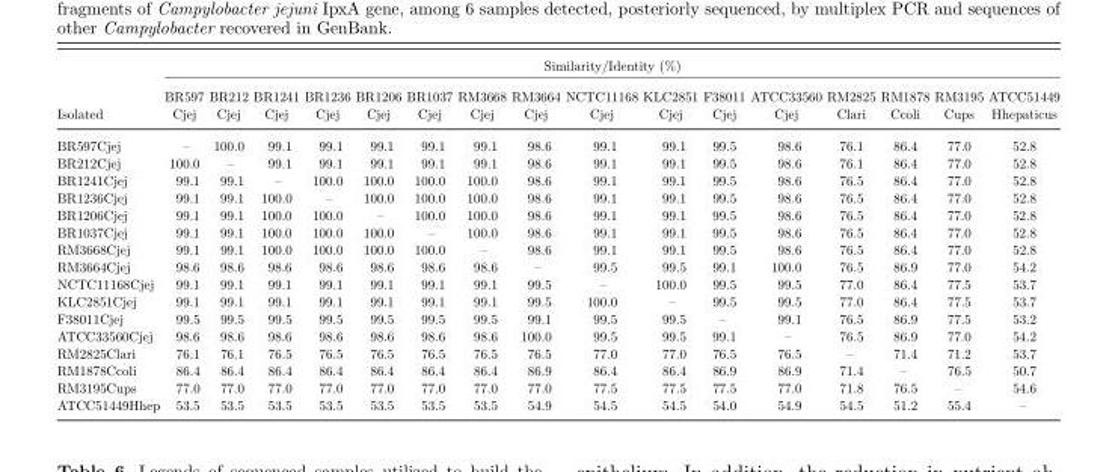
<table><thead><tr><td rowspan="3">Isolated</td><td colspan="16">Similarity/Identity (%)</td></tr><tr><td rowspan="2">BR597 Cjej</td><td rowspan="2">BR212 Cjej</td><td rowspan="2">BR1241 Cjej</td><td rowspan="2">BR1236 Cjej</td><td rowspan="2">BR1206 Cjej</td><td rowspan="2">BR1037 Cjej</td><td rowspan="2">RM3668 Cjej</td><td rowspan="2">RM3664 Cjej</td><td rowspan="2">NCTC11168 Cjej</td><td rowspan="2">KLC2851 Cjej</td><td rowspan="2">F38011 Cjej</td><td rowspan="2">ATCC33560 Cjej</td><td rowspan="2">RM2825 Clari</td><td rowspan="2">RM1878 Ccoli</td><td rowspan="2">RM3195 Cups</td><td rowspan="2">ATCC51449 Hhepaticus</td></tr><tr></tr></thead><tbody><tr><td>BR597Cjej</td><td>–</td><td>100.0</td><td>99.1</td><td>99.1</td><td>99.1</td><td>99.1</td><td>99.1</td><td>98.6</td><td>99.1</td><td>99.1</td><td>99.5</td><td>98.6</td><td>76.1</td><td>86.4</td><td>77.0</td><td>52.8</td></tr><tr><td>BR212Cjej</td><td>100.0</td><td>–</td><td>99.1</td><td>99.1</td><td>99.1</td><td>99.1</td><td>99.1</td><td>98.6</td><td>99.1</td><td>99.1</td><td>99.5</td><td>98.6</td><td>76.1</td><td>86.4</td><td>77.0</td><td>52.8</td></tr><tr><td>BR1241Cjej</td><td>99.1</td><td>99.1</td><td>–</td><td>100.0</td><td>100.0</td><td>100.0</td><td>100.0</td><td>98.6</td><td>99.1</td><td>99.1</td><td>99.5</td><td>98.6</td><td>76.5</td><td>86.4</td><td>77.0</td><td>52.8</td></tr><tr><td>BR1236Cjej</td><td>99.1</td><td>99.1</td><td>100.0</td><td>–</td><td>100.0</td><td>100.0</td><td>100.0</td><td>98.6</td><td>99.1</td><td>99.1</td><td>99.5</td><td>98.6</td><td>76.5</td><td>86.4</td><td>77.0</td><td>52.8</td></tr><tr><td>BR1206Cjej</td><td>99.1</td><td>99.1</td><td>100.0</td><td>100.0</td><td>–</td><td>100.0</td><td>100.0</td><td>98.6</td><td>99.1</td><td>99.1</td><td>99.5</td><td>98.6</td><td>76.5</td><td>86.4</td><td>77.0</td><td>52.8</td></tr><tr><td>BR1037Cjej</td><td>99.1</td><td>99.1</td><td>100.0</td><td>100.0</td><td>100.0</td><td>–</td><td>100.0</td><td>98.6</td><td>99.1</td><td>99.1</td><td>99.5</td><td>98.6</td><td>76.5</td><td>86.4</td><td>77.0</td><td>52.8</td></tr><tr><td>RM3668Cjej</td><td>99.1</td><td>99.1</td><td>100.0</td><td>100.0</td><td>100.0</td><td>100.0</td><td>–</td><td>98.6</td><td>99.1</td><td>99.1</td><td>99.5</td><td>98.6</td><td>76.5</td><td>86.4</td><td>77.0</td><td>52.8</td></tr><tr><td>RM3664Cjej</td><td>98.6</td><td>98.6</td><td>98.6</td><td>98.6</td><td>98.6</td><td>98.6</td><td>98.6</td><td>–</td><td>99.5</td><td>99.5</td><td>99.1</td><td>100.0</td><td>76.5</td><td>86.9</td><td>77.0</td><td>54.2</td></tr><tr><td>NCTC11168Cjej</td><td>99.1</td><td>99.1</td><td>99.1</td><td>99.1</td><td>99.1</td><td>99.1</td><td>99.1</td><td>99.5</td><td>–</td><td>100.0</td><td>99.5</td><td>99.5</td><td>77.0</td><td>86.4</td><td>77.5</td><td>53.7</td></tr><tr><td>KLC2851Cjej</td><td>99.1</td><td>99.1</td><td>99.1</td><td>99.1</td><td>99.1</td><td>99.1</td><td>99.1</td><td>99.5</td><td>100.0</td><td>–</td><td>99.5</td><td>99.5</td><td>77.0</td><td>86.4</td><td>77.5</td><td>53.7</td></tr><tr><td>F38011Cjej</td><td>99.5</td><td>99.5</td><td>99.5</td><td>99.5</td><td>99.5</td><td>99.5</td><td>99.5</td><td>99.1</td><td>99.5</td><td>99.5</td><td>–</td><td>99.1</td><td>76.5</td><td>86.9</td><td>77.5</td><td>53.2</td></tr><tr><td>ATCC33560Cjej</td><td>98.6</td><td>98.6</td><td>98.6</td><td>98.6</td><td>98.6</td><td>98.6</td><td>98.6</td><td>100.0</td><td>99.5</td><td>99.5</td><td>99.1</td><td>–</td><td>76.5</td><td>86.9</td><td>77.0</td><td>54.2</td></tr><tr><td>RM2825Clari</td><td>76.1</td><td>76.1</td><td>76.5</td><td>76.5</td><td>76.5</td><td>76.5</td><td>76.5</td><td>76.5</td><td>77.0</td><td>77.0</td><td>76.5</td><td>76.5</td><td>–</td><td>71.4</td><td>71.2</td><td>53.7</td></tr><tr><td>RM1878Ccoli</td><td>86.4</td><td>86.4</td><td>86.4</td><td>86.4</td><td>86.4</td><td>86.4</td><td>86.4</td><td>86.9</td><td>86.4</td><td>86.4</td><td>86.9</td><td>86.9</td><td>71.4</td><td>–</td><td>76.5</td><td>50.7</td></tr><tr><td>RM3195Cups</td><td>77.0</td><td>77.0</td><td>77.0</td><td>77.0</td><td>77.0</td><td>77.0</td><td>77.0</td><td>77.0</td><td>77.5</td><td>77.5</td><td>77.5</td><td>77.0</td><td>71.8</td><td>76.5</td><td>–</td><td>54.6</td></tr><tr><td>ATCC51449Hhep</td><td>53.5</td><td>53.5</td><td>53.5</td><td>53.5</td><td>53.5</td><td>53.5</td><td>53.5</td><td>54.9</td><td>54.5</td><td>54.5</td><td>54.0</td><td>54.9</td><td>54.5</td><td>51.2</td><td>55.4</td><td>–</td></tr></tbody></table>